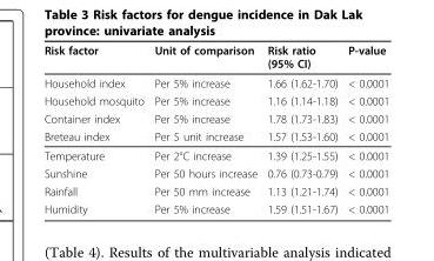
<table><thead><tr><td>Risk factor</td><td>Unit of comparison</td><td>Risk ratio (95% CI)</td><td>P-value</td></tr></thead><tbody><tr><td>Household index</td><td>Per 5% increase</td><td>1.66 (1.62-1.70)</td><td>&lt; 0.0001</td></tr><tr><td>Household mosquito</td><td>Per 5% increase</td><td>1.16 (1.14-1.18)</td><td>&lt; 0.0001</td></tr><tr><td>Container index</td><td>Per 5% increase</td><td>1.78 (1.73-1.83)</td><td>&lt; 0.0001</td></tr><tr><td>Breteau index</td><td>Per 5 unit increase</td><td>1.57 (1.53-1.60)</td><td>&lt; 0.0001</td></tr><tr><td>Temperature</td><td>Per 2°C increase</td><td>1.39 (1.25-1.55)</td><td>&lt; 0.0001</td></tr><tr><td>Sunshine</td><td>Per 50 hours increase</td><td>0.76 (0.73-0.79)</td><td>&lt; 0.0001</td></tr><tr><td>Rainfall</td><td>Per 50 mm increase</td><td>1.13 (1.21-1.74)</td><td>&lt; 0.0001</td></tr><tr><td>Humidity</td><td>Per 5% increase</td><td>1.59 (1.51-1.67)</td><td>&lt; 0.0001</td></tr></tbody></table>